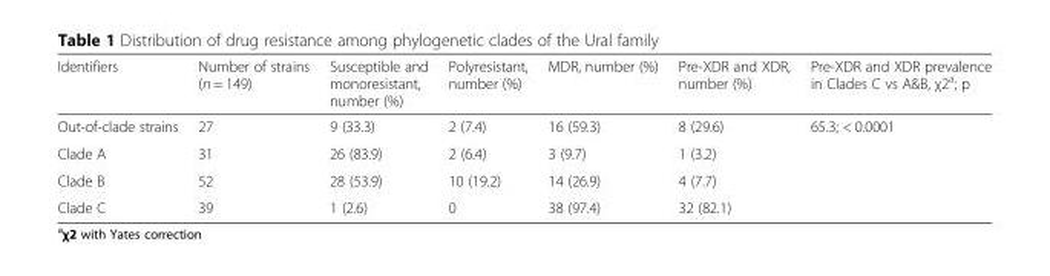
<table><thead><tr><td>Identifiers</td><td>Number of strains (n = 149)</td><td>Susceptible and monoresistant, number (%)</td><td>Polyresistant, number (%)</td><td>MDR, number (%)</td><td>Pre-XDR and XDR, number (%)</td><td>Pre-XDR and XDR prevalence in Clades C vs A&amp;B, χ2<sup>a</sup>; p</td></tr></thead><tbody><tr><td>Out-of-clade strains</td><td>27</td><td>9 (33.3)</td><td>2 (7.4)</td><td>16 (59.3)</td><td>8 (29.6)</td><td rowspan="4">65.3; &lt; 0.0001</td></tr><tr><td>Clade A</td><td>31</td><td>26 (83.9)</td><td>2 (6.4)</td><td>3 (9.7)</td><td>1 (3.2)</td></tr><tr><td>Clade B</td><td>52</td><td>28 (53.9)</td><td>10 (19.2)</td><td>14 (26.9)</td><td>4 (7.7)</td></tr><tr><td>Clade C</td><td>39</td><td>1 (2.6)</td><td>0</td><td>38 (97.4)</td><td>32 (82.1)</td></tr></tbody></table>